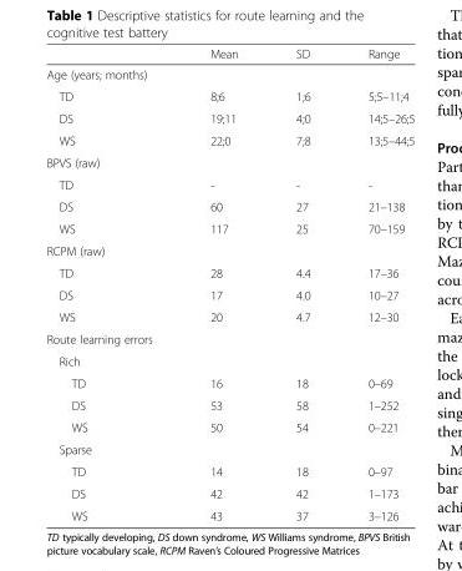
<table><thead><tr><td></td><td>Mean</td><td>SD</td><td>Range</td></tr></thead><tbody><tr><td colspan="4">Age (years; months)</td></tr><tr><td>TD</td><td>8;6</td><td>1;6</td><td>5;5–11;4</td></tr><tr><td>DS</td><td>19;11</td><td>4;0</td><td>14;5–26;5</td></tr><tr><td>WS</td><td>22;0</td><td>7;8</td><td>13;5–44;5</td></tr><tr><td colspan="4">BPVS (raw)</td></tr><tr><td>TD</td><td>-</td><td>-</td><td>-</td></tr><tr><td>DS</td><td>60</td><td>27</td><td>21–138</td></tr><tr><td>WS</td><td>117</td><td>25</td><td>70–159</td></tr><tr><td colspan="4">RCPM (raw)</td></tr><tr><td>TD</td><td>28</td><td>4.4</td><td>17–36</td></tr><tr><td>DS</td><td>17</td><td>4.0</td><td>10–27</td></tr><tr><td>WS</td><td>20</td><td>4.7</td><td>12–30</td></tr><tr><td colspan="4">Route learning errors</td></tr><tr><td colspan="4">Rich</td></tr><tr><td>TD</td><td>16</td><td>18</td><td>0–69</td></tr><tr><td>DS</td><td>53</td><td>58</td><td>1–252</td></tr><tr><td>WS</td><td>50</td><td>54</td><td>0–221</td></tr><tr><td colspan="4">Sparse</td></tr><tr><td>TD</td><td>14</td><td>18</td><td>0–97</td></tr><tr><td>DS</td><td>42</td><td>42</td><td>1–173</td></tr><tr><td>WS</td><td>43</td><td>37</td><td>3–126</td></tr></tbody></table>